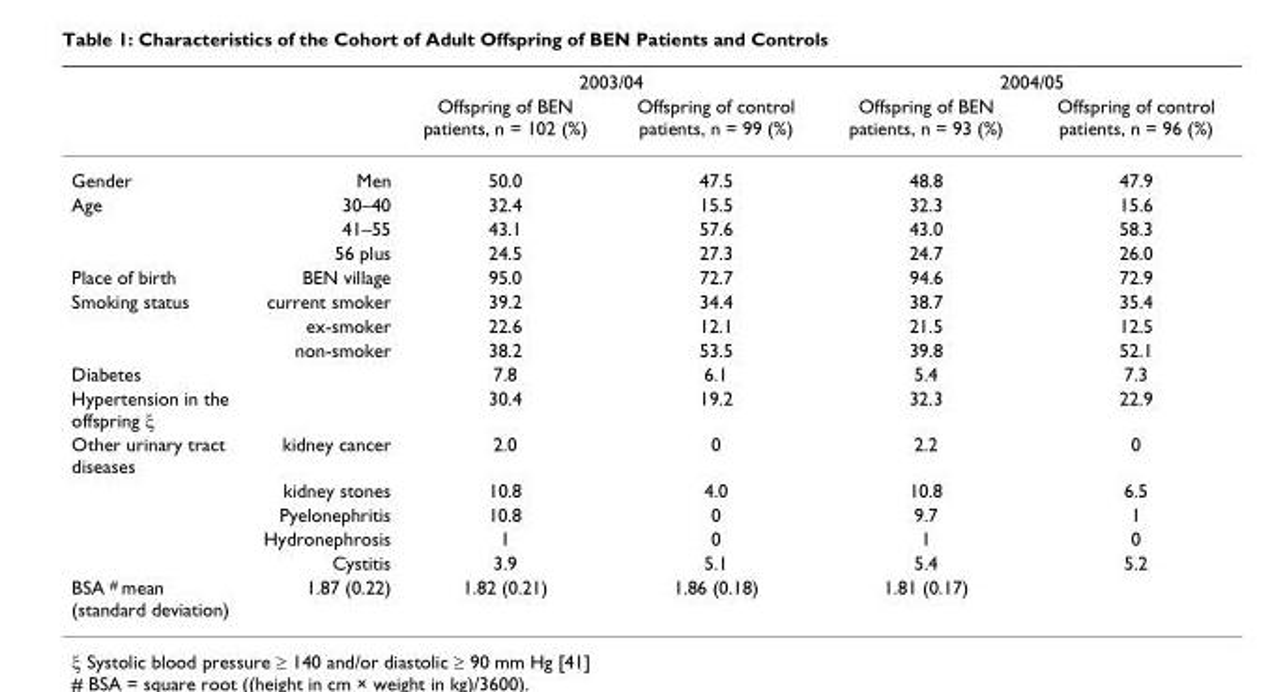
<table><thead><tr><td rowspan="2"></td><td rowspan="2"></td><td colspan="2">2003/04</td><td colspan="2">2004/05</td></tr><tr><td>Offspring of BEN patients, n = 102 (%)</td><td>Offspring of control patients, n = 99 (%)</td><td>Offspring of BEN patients, n = 93 (%)</td><td>Offspring of control patients, n = 96 (%)</td></tr></thead><tbody><tr><td>Gender</td><td>Men</td><td>50.0</td><td>47.5</td><td>48.8</td><td>47.9</td></tr><tr><td rowspan="3">Age</td><td>30–40</td><td>32.4</td><td>15.5</td><td>32.3</td><td>15.6</td></tr><tr><td>41–55</td><td>43.1</td><td>57.6</td><td>43.0</td><td>58.3</td></tr><tr><td>56 plus</td><td>24.5</td><td>27.3</td><td>24.7</td><td>26.0</td></tr><tr><td>Place of birth</td><td>BEN village</td><td>95.0</td><td>72.7</td><td>94.6</td><td>72.9</td></tr><tr><td rowspan="3">Smoking status</td><td>current smoker</td><td>39.2</td><td>34.4</td><td>38.7</td><td>35.4</td></tr><tr><td>ex-smoker</td><td>22.6</td><td>12.1</td><td>21.5</td><td>12.5</td></tr><tr><td>non-smoker</td><td>38.2</td><td>53.5</td><td>39.8</td><td>52.1</td></tr><tr><td>Diabetes</td><td></td><td>7.8</td><td>6.1</td><td>5.4</td><td>7.3</td></tr><tr><td>Hypertension in the offspring ξ</td><td></td><td>30.4</td><td>19.2</td><td>32.3</td><td>22.9</td></tr><tr><td rowspan="5">Other urinary tract diseases</td><td>kidney cancer</td><td>2.0</td><td>0</td><td>2.2</td><td>0</td></tr><tr><td>kidney stones</td><td>10.8</td><td>4.0</td><td>10.8</td><td>6.5</td></tr><tr><td>Pyelonephritis</td><td>10.8</td><td>0</td><td>9.7</td><td>1</td></tr><tr><td>Hydronephrosis</td><td>1</td><td>0</td><td>1</td><td>0</td></tr><tr><td>Cystitis</td><td>3.9</td><td>5.1</td><td>5.4</td><td>5.2</td></tr><tr><td>BSA <sup>#</sup> mean (standard deviation)</td><td>1.87 (0.22)</td><td>1.82 (0.21)</td><td>1.86 (0.18)</td><td>1.81 (0.17)</td><td></td></tr></tbody></table>